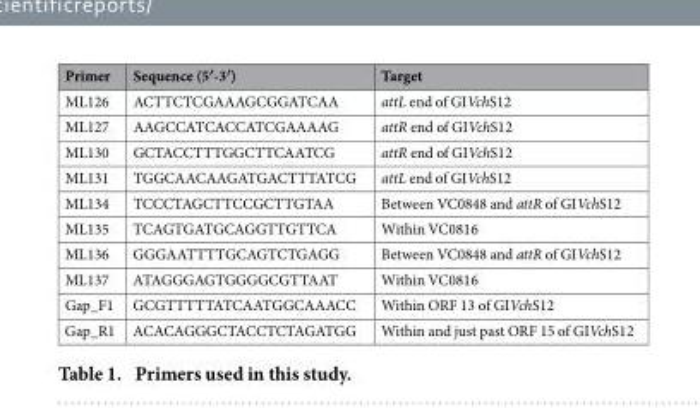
<table><thead><tr><td>Primer</td><td>Sequence (5′-3′)</td><td>Target</td></tr></thead><tbody><tr><td>ML126</td><td>ACTTCTCGAAAGCGGATCAA</td><td>attL end of GIVchS12</td></tr><tr><td>ML127</td><td>AAGCCATCACCATCGAAAAG</td><td>attR end of GIVchS12</td></tr><tr><td>ML130</td><td>GCTACCTTTGGCTTCAATCG</td><td>attR end of GIVchS12</td></tr><tr><td>ML131</td><td>TGGCAACAAGATGACTTTATCG</td><td>attL end of GIVchS12</td></tr><tr><td>ML134</td><td>TCCCTAGCTTCCGCTTGTAA</td><td>Between VC0848 and attR of GIVchS12</td></tr><tr><td>ML135</td><td>TCAGTGATGCAGGTTGTTCA</td><td>Within VC0816</td></tr><tr><td>ML136</td><td>GGGAATTTTGCAGTCTGAGG</td><td>Between VC0848 and attR of GIVchS12</td></tr><tr><td>ML137</td><td>ATAGGGAGTGGGGCGTTAAT</td><td>Within VC0816</td></tr><tr><td>Gap_F1</td><td>GCGTTTTTATCAATGGCAAACC</td><td>Within ORF 13 of GIVchS12</td></tr><tr><td>Gap_R1</td><td>ACACAGGGCTACCTCTAGATGG</td><td>Within and just past ORF 15 of GIVchS12</td></tr></tbody></table>